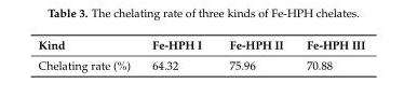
<table><thead><tr><td>Kind</td><td>Fe-HPH I</td><td>Fe-HPH II</td><td>Fe-HPH III</td></tr></thead><tbody><tr><td>Chelating rate (%)</td><td>64.32</td><td>75.96</td><td>70.88</td></tr></tbody></table>